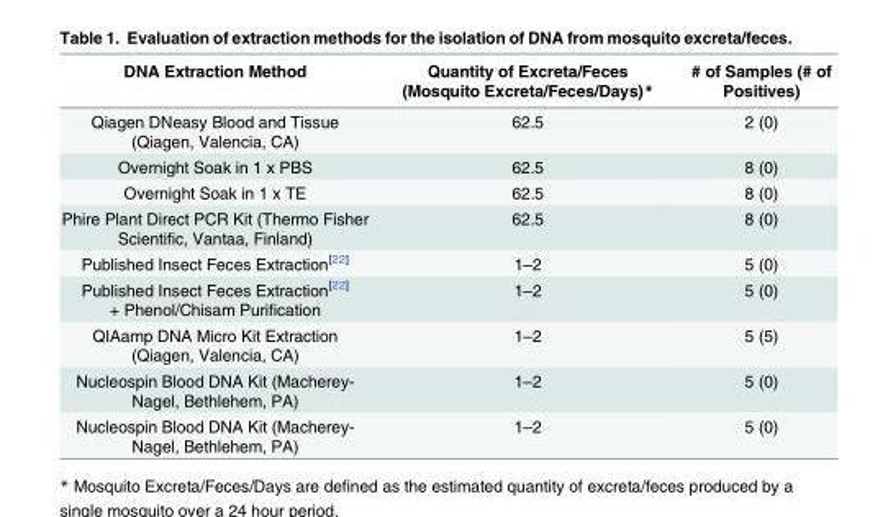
<table><thead><tr><td>DNA Extraction Method</td><td>Quantity of Excreta/Feces (Mosquito Excreta/Feces/Days)*</td><td># of Samples (# of Positives)</td></tr></thead><tbody><tr><td>Qiagen DNeasy Blood and Tissue (Qiagen, Valencia, CA)</td><td>62.5</td><td>2 (0)</td></tr><tr><td>Overnight Soak in 1 x PBS</td><td>62.5</td><td>8 (0)</td></tr><tr><td>Overnight Soak in 1 x TE</td><td>62.5</td><td>8 (0)</td></tr><tr><td>Phire Plant Direct PCR Kit (Thermo Fisher Scientific, Vantaa, Finland)</td><td>62.5</td><td>8 (0)</td></tr><tr><td>Published Insect Feces Extraction<sup>[22]</sup></td><td>1–2</td><td>5 (0)</td></tr><tr><td>Published Insect Feces Extraction<sup>[22]</sup> + Phenol/Chisam Purification</td><td>1–2</td><td>5 (0)</td></tr><tr><td>QIAamp DNA Micro Kit Extraction (Qiagen, Valencia, CA)</td><td>1–2</td><td>5 (5)</td></tr><tr><td>Nucleospin Blood DNA Kit (Macherey- Nagel, Bethlehem, PA)</td><td>1–2</td><td>5 (0)</td></tr><tr><td>Nucleospin Blood DNA Kit (Macherey- Nagel, Bethlehem, PA)</td><td>1–2</td><td>5 (0)</td></tr></tbody></table>